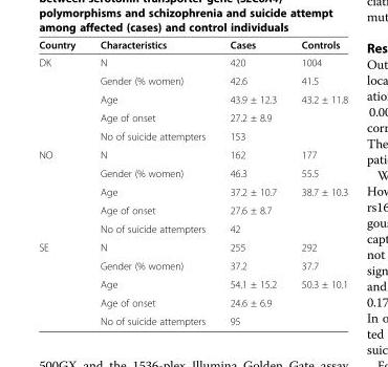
<table><thead><tr><td>Country</td><td>Characteristics</td><td>Cases</td><td>Controls</td></tr></thead><tbody><tr><td rowspan="5">DK</td><td>N</td><td>420</td><td>1004</td></tr><tr><td>Gender (% women)</td><td>42.6</td><td>41.5</td></tr><tr><td>Age</td><td>43.9 ± 12.3</td><td>43.2 ± 11.8</td></tr><tr><td>Age of onset</td><td>27.2 ± 8.9</td><td></td></tr><tr><td>No of suicide attempters</td><td>153</td><td></td></tr><tr><td rowspan="5">NO</td><td>N</td><td>162</td><td>177</td></tr><tr><td>Gender (% women)</td><td>46.3</td><td>55.5</td></tr><tr><td>Age</td><td>37.2 ± 10.7</td><td>38.7 ± 10.3</td></tr><tr><td>Age of onset</td><td>27.6 ± 8.7</td><td></td></tr><tr><td>No of suicide attempters</td><td>42</td><td></td></tr><tr><td rowspan="5">SE</td><td>N</td><td>255</td><td>292</td></tr><tr><td>Gender (% women)</td><td>37.2</td><td>37.7</td></tr><tr><td>Age</td><td>54.1 ± 15.2</td><td>50.3 ± 10.1</td></tr><tr><td>Age of onset</td><td>24.6 ± 6.9</td><td></td></tr><tr><td>No of suicide attempters</td><td>95</td><td></td></tr></tbody></table>